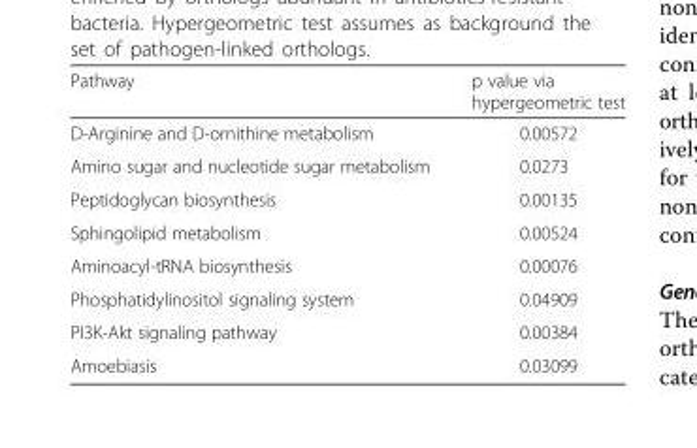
<table><thead><tr><td>Pathway</td><td>p value via hypergeometric test</td></tr></thead><tbody><tr><td>D-Arginine and D-ornithine metabolism</td><td>0.00572</td></tr><tr><td>Amino sugar and nucleotide sugar metabolism</td><td>0.0273</td></tr><tr><td>Peptidoglycan biosynthesis</td><td>0.00135</td></tr><tr><td>Sphingolipid metabolism</td><td>0.00524</td></tr><tr><td>Aminoacyl-tRNA biosynthesis</td><td>0.00076</td></tr><tr><td>Phosphatidylinositol signaling system</td><td>0.04909</td></tr><tr><td>PI3K-Akt signaling pathway</td><td>0.00384</td></tr><tr><td>Amoebiasis</td><td>0.03099</td></tr></tbody></table>